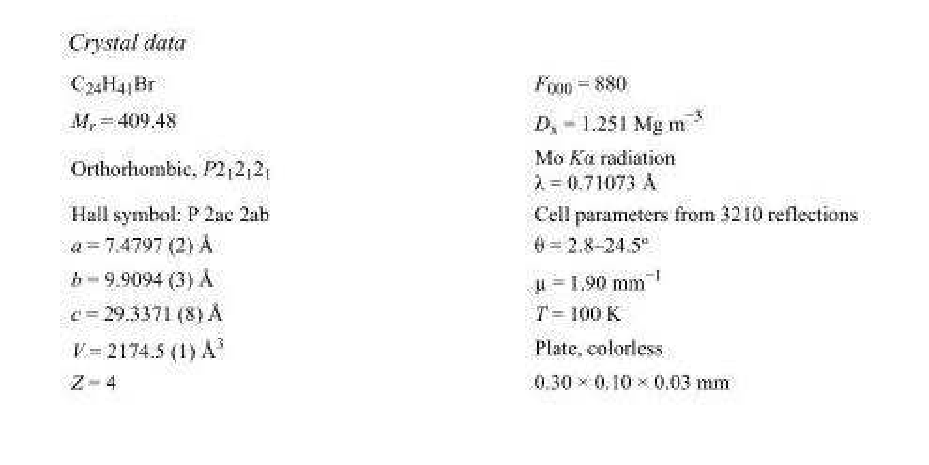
<table><tbody><tr><td>C<sub>24</sub>H<sub>41</sub>Br</td><td>F000 = 880</td></tr><tr><td>M<sub>r</sub> = 409.48</td><td>D<sub>x</sub> = 1.251 Mg m<sup>−3</sup></td></tr><tr><td>Orthorhombic, P2<sub>1</sub>2<sub>1</sub>2<sub>1</sub></td><td>Mo Kα radiation λ = 0.71073 Å</td></tr><tr><td>Hall symbol: P 2ac 2ab</td><td>Cell parameters from 3210 reflections</td></tr><tr><td>a = 7.4797 (2) Å</td><td>θ = 2.8–24.5º</td></tr><tr><td>b = 9.9094 (3) Å</td><td>µ = 1.90 mm<sup>−1</sup></td></tr><tr><td>c = 29.3371 (8) Å</td><td>T = 100 K</td></tr><tr><td>V = 2174.5 (1) Å<sup>3</sup></td><td>Plate, colorless</td></tr><tr><td>Z = 4</td><td>0.30 × 0.10 × 0.03 mm</td></tr></tbody></table>